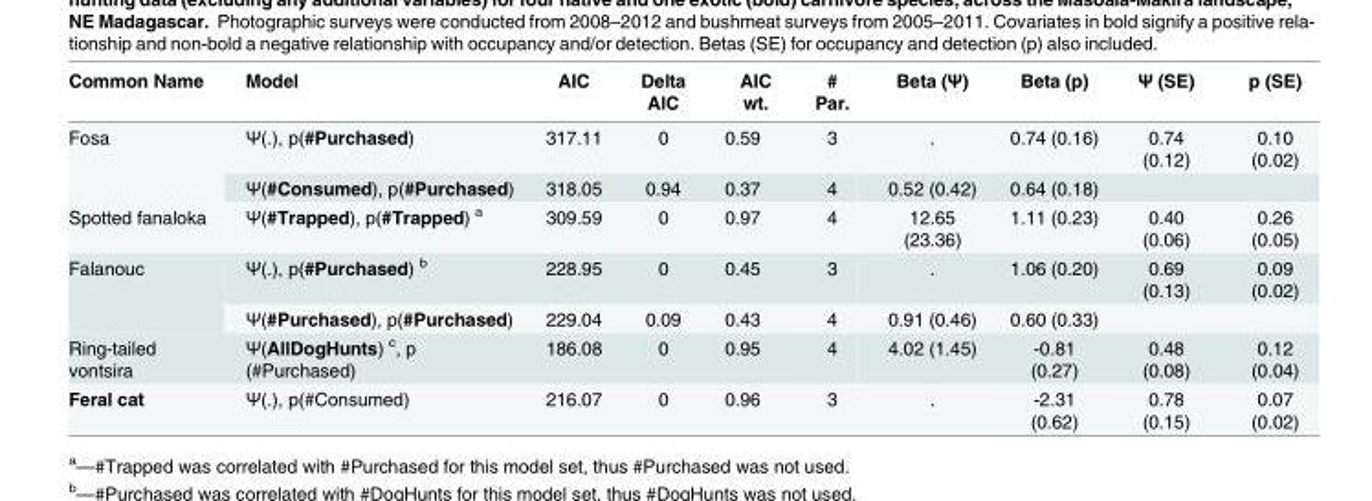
<table><thead><tr><td>Common Name</td><td>Model</td><td>AIC</td><td>Delta AIC</td><td>AIC wt.</td><td># Par.</td><td>Beta (Ψ)</td><td>Beta (p)</td><td>Ψ (SE)</td><td>p (SE)</td></tr></thead><tbody><tr><td rowspan="2">Fosa</td><td>Ψ(.), p(#Purchased)</td><td>317.11</td><td>0</td><td>0.59</td><td>3</td><td>.</td><td>0.74 (0.16)</td><td>0.74 (0.12)</td><td>0.10 (0.02)</td></tr><tr><td>Ψ(#Consumed), p(#Purchased)</td><td>318.05</td><td>0.94</td><td>0.37</td><td>4</td><td>0.52 (0.42)</td><td>0.64 (0.18)</td><td></td><td></td></tr><tr><td>Spotted fanaloka</td><td>Ψ(#Trapped), p(#Trapped) <sup>a</sup></td><td>309.59</td><td>0</td><td>0.97</td><td>4</td><td>12.65 (23.36)</td><td>1.11 (0.23)</td><td>0.40 (0.06)</td><td>0.26 (0.05)</td></tr><tr><td rowspan="2">Falanouc</td><td>Ψ(.), p(#Purchased) <sup>b</sup></td><td>228.95</td><td>0</td><td>0.45</td><td>3</td><td>.</td><td>1.06 (0.20)</td><td>0.69 (0.13)</td><td>0.09 (0.02)</td></tr><tr><td>Ψ(#Purchased), p(#Purchased)</td><td>229.04</td><td>0.09</td><td>0.43</td><td>4</td><td>0.91 (0.46)</td><td>0.60 (0.33)</td><td></td><td></td></tr><tr><td>Ring-tailed vontsira</td><td>Ψ(AllDogHunts) <sup>c</sup>, p (#Purchased)</td><td>186.08</td><td>0</td><td>0.95</td><td>4</td><td>4.02 (1.45)</td><td>-0.81 (0.27)</td><td>0.48 (0.08)</td><td>0.12 (0.04)</td></tr><tr><td>Feral cat</td><td>Ψ(.), p(#Consumed)</td><td>216.07</td><td>0</td><td>0.96</td><td>3</td><td>.</td><td>-2.31 (0.62)</td><td>0.78 (0.15)</td><td>0.07 (0.02)</td></tr></tbody></table>